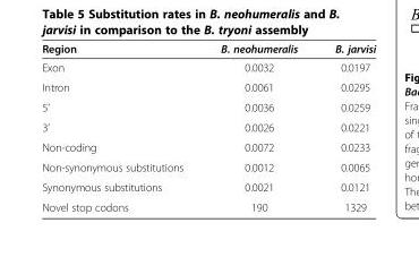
<table><thead><tr><td>Region</td><td>B. neohumeralis</td><td>B. jarvisi</td></tr></thead><tbody><tr><td>Exon</td><td>0.0032</td><td>0.0197</td></tr><tr><td>Intron</td><td>0.0061</td><td>0.0295</td></tr><tr><td>5’</td><td>0.0036</td><td>0.0259</td></tr><tr><td>3’</td><td>0.0026</td><td>0.0221</td></tr><tr><td>Non-coding</td><td>0.0072</td><td>0.0233</td></tr><tr><td>Non-synonymous substitutions</td><td>0.0012</td><td>0.0065</td></tr><tr><td>Synonymous substitutions</td><td>0.0021</td><td>0.0121</td></tr><tr><td>Novel stop codons</td><td>190</td><td>1329</td></tr></tbody></table>